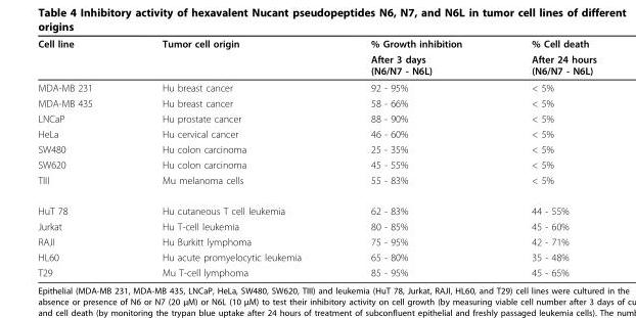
<table><thead><tr><td rowspan="2">Cell line</td><td rowspan="2">Tumor cell origin</td><td rowspan="2">% Growth inhibition After 3 days (N6/N7 - N6L)</td><td rowspan="2">% Cell death After 24 hours (N6/N7 - N6L)</td></tr><tr></tr></thead><tbody><tr><td>MDA-MB 231</td><td>Hu breast cancer</td><td>92 - 95%</td><td>&lt; 5%</td></tr><tr><td>MDA-MB 435</td><td>Hu breast cancer</td><td>58 - 66%</td><td>&lt; 5%</td></tr><tr><td>LNCaP</td><td>Hu prostate cancer</td><td>88 - 90%</td><td>&lt; 5%</td></tr><tr><td>HeLa</td><td>Hu cervical cancer</td><td>46 - 60%</td><td>&lt; 5%</td></tr><tr><td>SW480</td><td>Hu colon carcinoma</td><td>25 - 35%</td><td>&lt; 5%</td></tr><tr><td>SW620</td><td>Hu colon carcinoma</td><td>45 - 55%</td><td>&lt; 5%</td></tr><tr><td>TIII</td><td>Mu melanoma cells</td><td>55 - 83%</td><td>&lt; 5%</td></tr><tr><td>HuT 78</td><td>Hu cutaneous T cell leukemia</td><td>62 - 83%</td><td>44 - 55%</td></tr><tr><td>Jurkat</td><td>Hu T-cell leukemia</td><td>80 - 85%</td><td>45 - 60%</td></tr><tr><td>RAJI</td><td>Hu Burkitt lymphoma</td><td>75 - 95%</td><td>42 - 71%</td></tr><tr><td>HL60</td><td>Hu acute promyelocytic leukemia</td><td>65 - 80%</td><td>35 - 48%</td></tr><tr><td>T29</td><td>Mu T-cell lymphoma</td><td>85 - 95%</td><td>45 - 65%</td></tr></tbody></table>